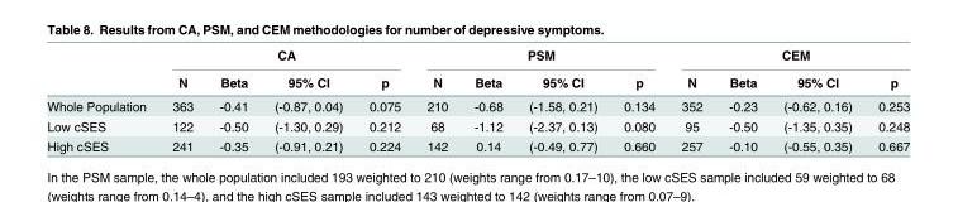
<table><thead><tr><td rowspan="2"></td><td colspan="4">CA</td><td colspan="4">PSM</td><td colspan="4">CEM</td></tr><tr><td>N</td><td>Beta</td><td>95% CI</td><td>p</td><td>N</td><td>Beta</td><td>95% CI</td><td>p</td><td>N</td><td>Beta</td><td>95% CI</td><td>p</td></tr></thead><tbody><tr><td>Whole Population</td><td>363</td><td>-0.41</td><td>(-0.87, 0.04)</td><td>0.075</td><td>210</td><td>-0.68</td><td>(-1.58, 0.21)</td><td>0.134</td><td>352</td><td>-0.23</td><td>(-0.62, 0.16)</td><td>0.253</td></tr><tr><td>Low cSES</td><td>122</td><td>-0.50</td><td>(-1.30, 0.29)</td><td>0.212</td><td>68</td><td>-1.12</td><td>(-2.37, 0.13)</td><td>0.080</td><td>95</td><td>-0.50</td><td>(-1.35, 0.35)</td><td>0.248</td></tr><tr><td>High cSES</td><td>241</td><td>-0.35</td><td>(-0.91, 0.21)</td><td>0.224</td><td>142</td><td>0.14</td><td>(-0.49, 0.77)</td><td>0.660</td><td>257</td><td>-0.10</td><td>(-0.55, 0.35)</td><td>0.667</td></tr></tbody></table>